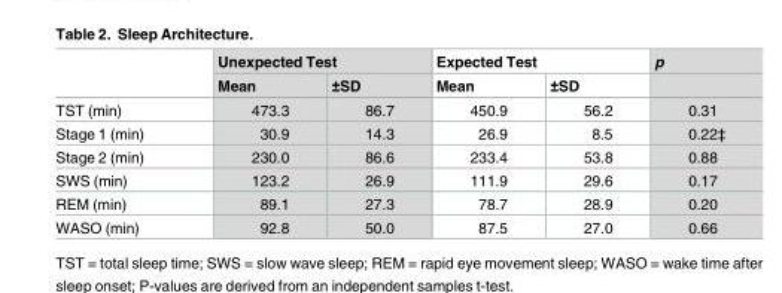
<table><thead><tr><td rowspan="2"></td><td colspan="2">Unexpected Test</td><td colspan="2">Expected Test</td><td rowspan="2">p</td></tr><tr><td>Mean</td><td>±SD</td><td>Mean</td><td>±SD</td></tr></thead><tbody><tr><td>TST (min)</td><td>473.3</td><td>86.7</td><td>450.9</td><td>56.2</td><td>0.31</td></tr><tr><td>Stage 1 (min)</td><td>30.9</td><td>14.3</td><td>26.9</td><td>8.5</td><td>0.22‡</td></tr><tr><td>Stage 2 (min)</td><td>230.0</td><td>86.6</td><td>233.4</td><td>53.8</td><td>0.88</td></tr><tr><td>SWS (min)</td><td>123.2</td><td>26.9</td><td>111.9</td><td>29.6</td><td>0.17</td></tr><tr><td>REM (min)</td><td>89.1</td><td>27.3</td><td>78.7</td><td>28.9</td><td>0.20</td></tr><tr><td>WASO (min)</td><td>92.8</td><td>50.0</td><td>87.5</td><td>27.0</td><td>0.66</td></tr></tbody></table>